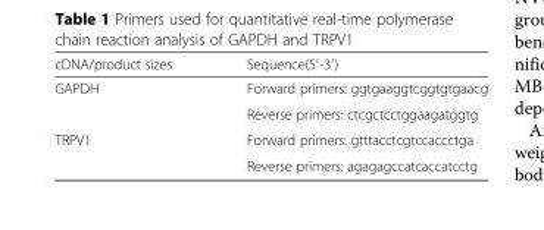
<table><thead><tr><td>cDNA/product sizes</td><td>Sequence(5′-3′)</td></tr></thead><tbody><tr><td rowspan="2">GAPDH</td><td>Forward primers: ggtgaaggtcggtgtgaacg</td></tr><tr><td>Reverse primers: ctcgctcctggaagatggtg</td></tr><tr><td rowspan="2">TRPV1</td><td>Forward primers: gtttacctcgtccaccctga</td></tr><tr><td>Reverse primers: agagagccatcaccatcctg</td></tr></tbody></table>